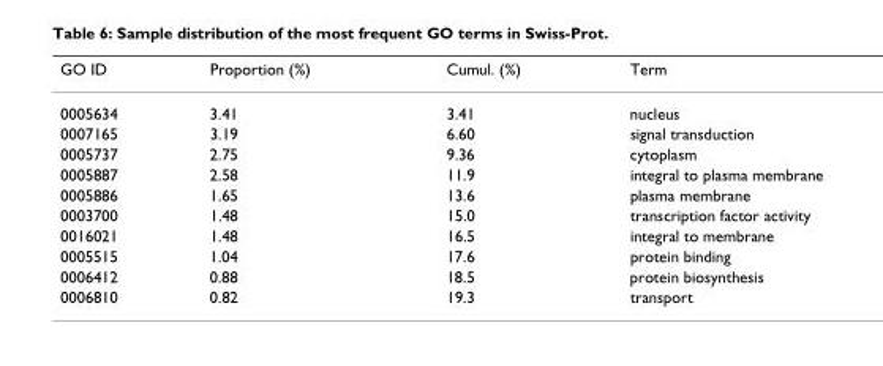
<table><thead><tr><td>GO ID</td><td>Proportion (%)</td><td>Cumul. (%)</td><td>Term</td></tr></thead><tbody><tr><td>0005634</td><td>3.41</td><td>3.41</td><td>nucleus</td></tr><tr><td>0007165</td><td>3.19</td><td>6.60</td><td>signal transduction</td></tr><tr><td>0005737</td><td>2.75</td><td>9.36</td><td>cytoplasm</td></tr><tr><td>0005887</td><td>2.58</td><td>11.9</td><td>integral to plasma membrane</td></tr><tr><td>0005886</td><td>1.65</td><td>13.6</td><td>plasma membrane</td></tr><tr><td>0003700</td><td>1.48</td><td>15.0</td><td>transcription factor activity</td></tr><tr><td>0016021</td><td>1.48</td><td>16.5</td><td>integral to membrane</td></tr><tr><td>0005515</td><td>1.04</td><td>17.6</td><td>protein binding</td></tr><tr><td>0006412</td><td>0.88</td><td>18.5</td><td>protein biosynthesis</td></tr><tr><td>0006810</td><td>0.82</td><td>19.3</td><td>transport</td></tr></tbody></table>